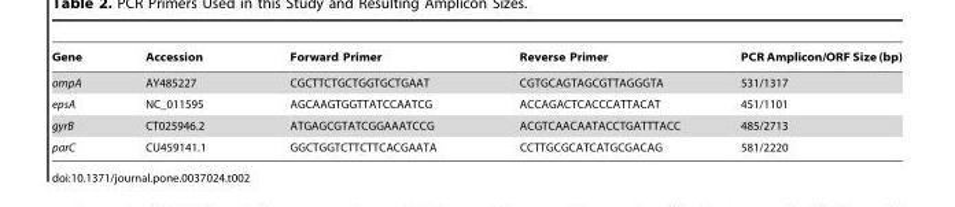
<table><thead><tr><td>Gene</td><td>Accession</td><td>Forward Primer</td><td>Reverse Primer</td><td>PCR Amplicon/ORF Size (bp)</td></tr></thead><tbody><tr><td>ompA</td><td>AY485227</td><td>CGCTTCTGCTGGTGCTGAAT</td><td>CGTGCAGTAGCGTTAGGGTA</td><td>531/1317</td></tr><tr><td>epsA</td><td>NC_011595</td><td>AGCAAGTGGTTATCCAATCG</td><td>ACCAGACTCACCCATTACAT</td><td>451/1101</td></tr><tr><td>gyrB</td><td>CT025946.2</td><td>ATGAGCGTATCGGAAATCCG</td><td>ACGTCAACAATACCTGATTTACC</td><td>485/2713</td></tr><tr><td>parC</td><td>CU459141.1</td><td>GGCTGGTCTTCTTCACGAATA</td><td>CCTTGCGCATCATGCGACAG</td><td>581/2220</td></tr></tbody></table>